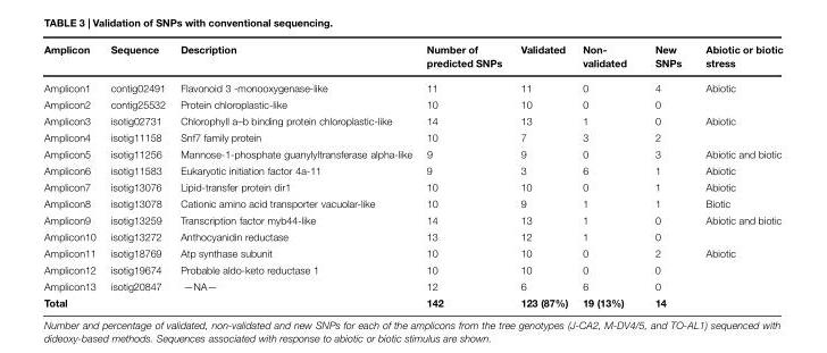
<table><thead><tr><td>Amplicon</td><td>Sequence</td><td>Description</td><td>Number of predicted SNPs</td><td>Validated</td><td>Non- validated</td><td>New SNPs</td><td>Abiotic or biotic stress</td></tr></thead><tbody><tr><td>Amplicon1</td><td>contig02491</td><td>Flavonoid 3 -monooxygenase-like</td><td>11</td><td>11</td><td>0</td><td>4</td><td>Abiotic</td></tr><tr><td>Amplicon2</td><td>contig25532</td><td>Protein chloroplastic-like</td><td>10</td><td>10</td><td>0</td><td>0</td><td></td></tr><tr><td>Amplicon3</td><td>isotig02731</td><td>Chlorophyll a–b binding protein chloroplastic-like</td><td>14</td><td>13</td><td>1</td><td>0</td><td>Abiotic</td></tr><tr><td>Amplicon4</td><td>isotig11158</td><td>Snf7 family protein</td><td>10</td><td>7</td><td>3</td><td>2</td><td></td></tr><tr><td>Amplicon5</td><td>isotig11256</td><td>Mannose-1-phosphate guanylyltransferase alpha-like</td><td>9</td><td>9</td><td>0</td><td>3</td><td>Abiotic and biotic</td></tr><tr><td>Amplicon6</td><td>isotig11583</td><td>Eukaryotic initiation factor 4a-11</td><td>9</td><td>3</td><td>6</td><td>1</td><td>Abiotic</td></tr><tr><td>Amplicon7</td><td>isotig13076</td><td>Lipid-transfer protein dir1</td><td>10</td><td>10</td><td>0</td><td>1</td><td>Abiotic</td></tr><tr><td>Amplicon8</td><td>isotig13078</td><td>Cationic amino acid transporter vacuolar-like</td><td>10</td><td>9</td><td>1</td><td>1</td><td>Biotic</td></tr><tr><td>Amplicon9</td><td>isotig13259</td><td>Transcription factor myb44-like</td><td>14</td><td>13</td><td>1</td><td>0</td><td>Abiotic and biotic</td></tr><tr><td>Amplicon10</td><td>isotig13272</td><td>Anthocyanidin reductase</td><td>13</td><td>12</td><td>1</td><td>0</td><td></td></tr><tr><td>Amplicon11</td><td>isotig18769</td><td>Atp synthase subunit</td><td>10</td><td>10</td><td>0</td><td>2</td><td>Abiotic</td></tr><tr><td>Amplicon12</td><td>isotig19674</td><td>Probable aldo-keto reductase 1</td><td>10</td><td>10</td><td>0</td><td>0</td><td></td></tr><tr><td>Amplicon13</td><td>isotig20847</td><td>—NA—</td><td>12</td><td>6</td><td>6</td><td>0</td><td></td></tr><tr><td>Total</td><td></td><td></td><td>142</td><td>123 (87%)</td><td>19 (13%)</td><td>14</td><td></td></tr></tbody></table>